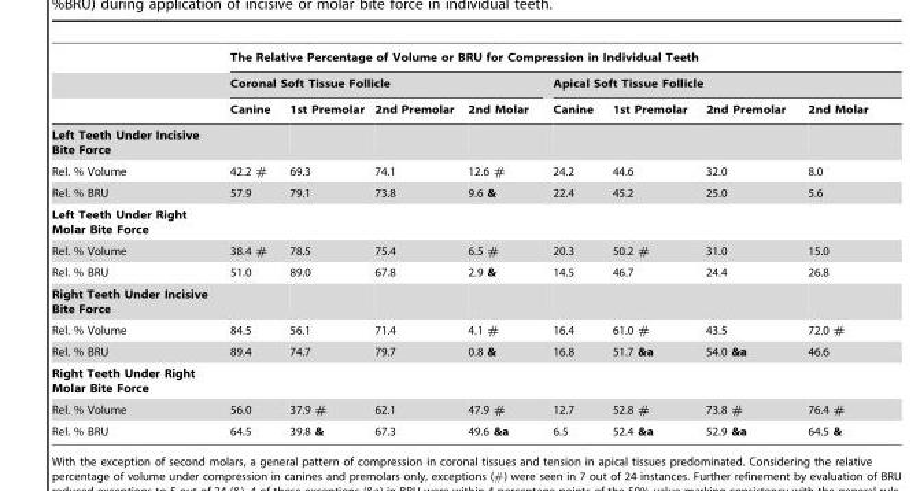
<table><thead><tr><td rowspan="3"></td><td colspan="8">The Relative Percentage of Volume or BRU for Compression in Individual Teeth</td></tr><tr><td colspan="4">Coronal Soft Tissue Follicle</td><td colspan="4">Apical Soft Tissue Follicle</td></tr><tr><td>Canine</td><td>1st Premolar</td><td>2nd Premolar</td><td>2nd Molar</td><td>Canine</td><td>1st Premolar</td><td>2nd Premolar</td><td>2nd Molar</td></tr></thead><tbody><tr><td colspan="9">Left Teeth Under Incisive Bite Force</td></tr><tr><td>Rel. % Volume</td><td>42.2 #</td><td>69.3</td><td>74.1</td><td>12.6 #</td><td>24.2</td><td>44.6</td><td>32.0</td><td>8.0</td></tr><tr><td>Rel. % BRU</td><td>57.9</td><td>79.1</td><td>73.8</td><td>9.6 &amp;</td><td>22.4</td><td>45.2</td><td>25.0</td><td>5.6</td></tr><tr><td colspan="9">Left Teeth Under Right Molar Bite Force</td></tr><tr><td>Rel. % Volume</td><td>38.4 #</td><td>78.5</td><td>75.4</td><td>6.5 #</td><td>20.3</td><td>50.2 #</td><td>31.0</td><td>15.0</td></tr><tr><td>Rel. % BRU</td><td>51.0</td><td>89.0</td><td>67.8</td><td>2.9 &amp;</td><td>14.5</td><td>46.7</td><td>24.4</td><td>26.8</td></tr><tr><td colspan="9">Right Teeth Under Incisive Bite Force</td></tr><tr><td>Rel. % Volume</td><td>84.5</td><td>56.1</td><td>71.4</td><td>4.1 #</td><td>16.4</td><td>61.0 #</td><td>43.5</td><td>72.0 #</td></tr><tr><td>Rel. % BRU</td><td>89.4</td><td>74.7</td><td>79.7</td><td>0.8 &amp;</td><td>16.8</td><td>51.7 &amp;a</td><td>54.0 &amp;a</td><td>46.6</td></tr><tr><td colspan="9">Right Teeth Under Right Molar Bite Force</td></tr><tr><td>Rel. % Volume</td><td>56.0</td><td>37.9 #</td><td>62.1</td><td>47.9 #</td><td>12.7</td><td>52.8 #</td><td>73.8 #</td><td>76.4 #</td></tr><tr><td>Rel. % BRU</td><td>64.5</td><td>39.8 &amp;</td><td>67.3</td><td>49.6 &amp;a</td><td>6.5</td><td>52.4 &amp;a</td><td>52.9 &amp;a</td><td>64.5 &amp;</td></tr></tbody></table>